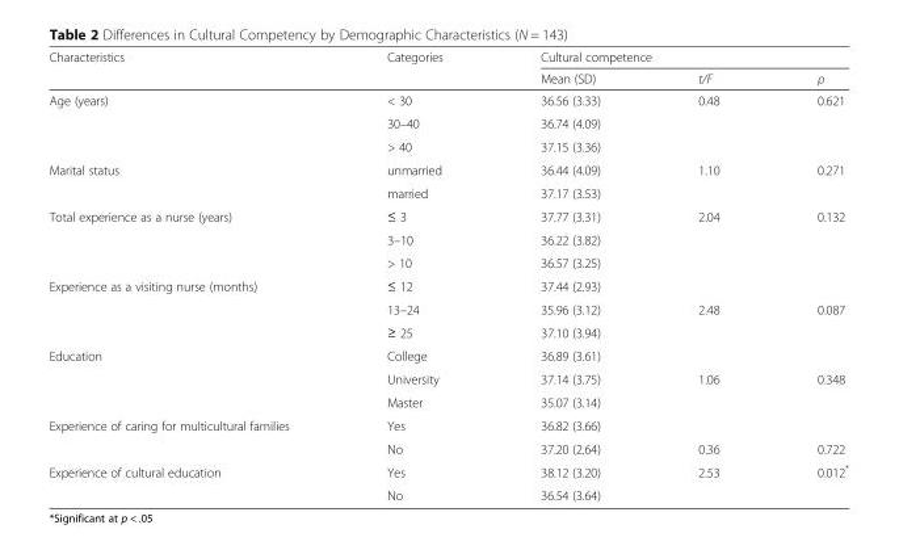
<table><thead><tr><td rowspan="2">Characteristics</td><td rowspan="2">Categories</td><td colspan="3">Cultural competence</td></tr><tr><td>Mean (SD)</td><td>t/F</td><td>ρ</td></tr></thead><tbody><tr><td rowspan="3">Age (years)</td><td>&lt; 30</td><td>36.56 (3.33)</td><td rowspan="3">0.48</td><td rowspan="3">0.621</td></tr><tr><td>30–40</td><td>36.74 (4.09)</td></tr><tr><td>&gt; 40</td><td>37.15 (3.36)</td></tr><tr><td rowspan="2">Marital status</td><td>unmarried</td><td>36.44 (4.09)</td><td rowspan="2">1.10</td><td rowspan="2">0.271</td></tr><tr><td>married</td><td>37.17 (3.53)</td></tr><tr><td rowspan="3">Total experience as a nurse (years)</td><td>≤ 3</td><td>37.77 (3.31)</td><td rowspan="3">2.04</td><td rowspan="3">0.132</td></tr><tr><td>3–10</td><td>36.22 (3.82)</td></tr><tr><td>&gt; 10</td><td>36.57 (3.25)</td></tr><tr><td rowspan="3">Experience as a visiting nurse (months)</td><td>≤ 12</td><td>37.44 (2.93)</td><td></td><td></td></tr><tr><td>13–24</td><td>35.96 (3.12)</td><td rowspan="2">2.48</td><td rowspan="2">0.087</td></tr><tr><td>≥ 25</td><td>37.10 (3.94)</td></tr><tr><td rowspan="3">Education</td><td>College</td><td>36.89 (3.61)</td><td></td><td></td></tr><tr><td>University</td><td>37.14 (3.75)</td><td>1.06</td><td>0.348</td></tr><tr><td>Master</td><td>35.07 (3.14)</td><td></td><td></td></tr><tr><td rowspan="2">Experience of caring for multicultural families</td><td>Yes</td><td>36.82 (3.66)</td><td></td><td></td></tr><tr><td>No</td><td>37.20 (2.64)</td><td>0.36</td><td>0.722</td></tr><tr><td rowspan="2">Experience of cultural education</td><td>Yes</td><td>38.12 (3.20)</td><td>2.53</td><td>0.012*</td></tr><tr><td>No</td><td>36.54 (3.64)</td><td></td><td></td></tr></tbody></table>